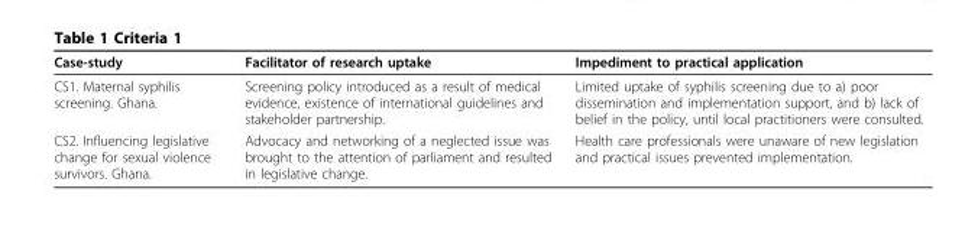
<table><thead><tr><td>Case-study</td><td>Facilitator of research uptake</td><td>Impediment to practical application</td></tr></thead><tbody><tr><td>CS1. Maternal syphilis screening. Ghana.</td><td>Screening policy introduced as a result of medical evidence, existence of international guidelines and stakeholder partnership.</td><td>Limited uptake of syphilis screening due to a) poor dissemination and implementation support, and b) lack of belief in the policy, until local practitioners were consulted.</td></tr><tr><td>CS2. Influencing legislative change for sexual violence survivors. Ghana.</td><td>Advocacy and networking of a neglected issue was brought to the attention of parliament and resulted in legislative change.</td><td>Health care professionals were unaware of new legislation and practical issues prevented implementation.</td></tr></tbody></table>